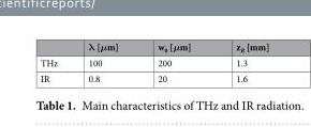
<table><thead><tr><td></td><td>λ [μm]</td><td>w<sub>0</sub> [μm]</td><td>z<sub>R</sub> [mm]</td></tr></thead><tbody><tr><td>THz</td><td>100</td><td>200</td><td>1.3</td></tr><tr><td>IR</td><td>0.8</td><td>20</td><td>1.6</td></tr></tbody></table>